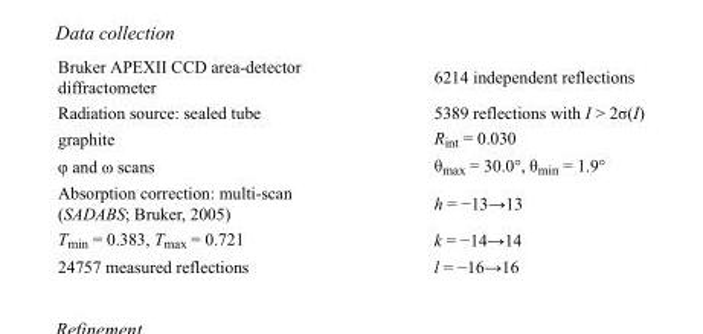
<table><tbody><tr><td>Bruker APEXII CCD area-detector diffractometer</td><td>6214 independent reflections</td></tr><tr><td>Radiation source: sealed tube</td><td>5389 reflections with I &gt; 2σ(I)</td></tr><tr><td>graphite</td><td>R<sub>int</sub> = 0.030</td></tr><tr><td>φ and ω scans</td><td>θ<sub>max</sub> = 30.0°, θ<sub>min</sub> = 1.9°</td></tr><tr><td>Absorption correction: multi-scan (SADABS; Bruker, 2005)</td><td>h = −13→13</td></tr><tr><td>T<sub>min</sub> = 0.383, T<sub>max</sub> = 0.721</td><td>k = −14→14</td></tr><tr><td>24757 measured reflections</td><td>l = −16→16</td></tr></tbody></table>